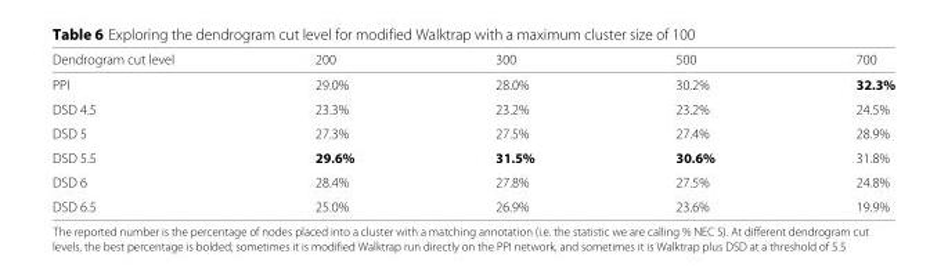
<table><thead><tr><td>Dendrogram cut level</td><td>200</td><td>300</td><td>500</td><td>700</td></tr></thead><tbody><tr><td>PPI</td><td>29.0%</td><td>28.0%</td><td>30.2%</td><td>32.3%</td></tr><tr><td>DSD 4.5</td><td>23.3%</td><td>23.2%</td><td>23.2%</td><td>24.5%</td></tr><tr><td>DSD 5</td><td>27.3%</td><td>27.5%</td><td>27.4%</td><td>28.9%</td></tr><tr><td>DSD 5.5</td><td>29.6%</td><td>31.5%</td><td>30.6%</td><td>31.8%</td></tr><tr><td>DSD 6</td><td>28.4%</td><td>27.8%</td><td>27.5%</td><td>24.8%</td></tr><tr><td>DSD 6.5</td><td>25.0%</td><td>26.9%</td><td>23.6%</td><td>19.9%</td></tr></tbody></table>